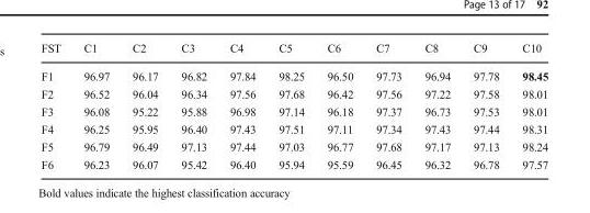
<table><thead><tr><td>FST</td><td>C1</td><td>C2</td><td>C3</td><td>C4</td><td>C5</td><td>C6</td><td>C7</td><td>C8</td><td>C9</td><td>C10</td></tr></thead><tbody><tr><td>F1</td><td>96.97</td><td>96.17</td><td>96.82</td><td>97.84</td><td>98.25</td><td>96.50</td><td>97.73</td><td>96.94</td><td>97.78</td><td>98.45</td></tr><tr><td>F2</td><td>96.52</td><td>96.04</td><td>96.34</td><td>97.56</td><td>97.68</td><td>96.42</td><td>97.56</td><td>97.22</td><td>97.58</td><td>98.01</td></tr><tr><td>F3</td><td>96.08</td><td>95.22</td><td>95.88</td><td>96.98</td><td>97.14</td><td>96.18</td><td>97.37</td><td>96.73</td><td>97.53</td><td>98.01</td></tr><tr><td>F4</td><td>96.25</td><td>95.95</td><td>96.40</td><td>97.43</td><td>97.51</td><td>97.11</td><td>97.34</td><td>97.43</td><td>97.44</td><td>98.31</td></tr><tr><td>F5</td><td>96.79</td><td>96.49</td><td>97.13</td><td>97.44</td><td>97.03</td><td>96.77</td><td>97.68</td><td>97.17</td><td>97.13</td><td>98.24</td></tr><tr><td>F6</td><td>96.23</td><td>96.07</td><td>95.42</td><td>96.40</td><td>95.94</td><td>95.59</td><td>96.45</td><td>96.32</td><td>96.78</td><td>97.57</td></tr></tbody></table>